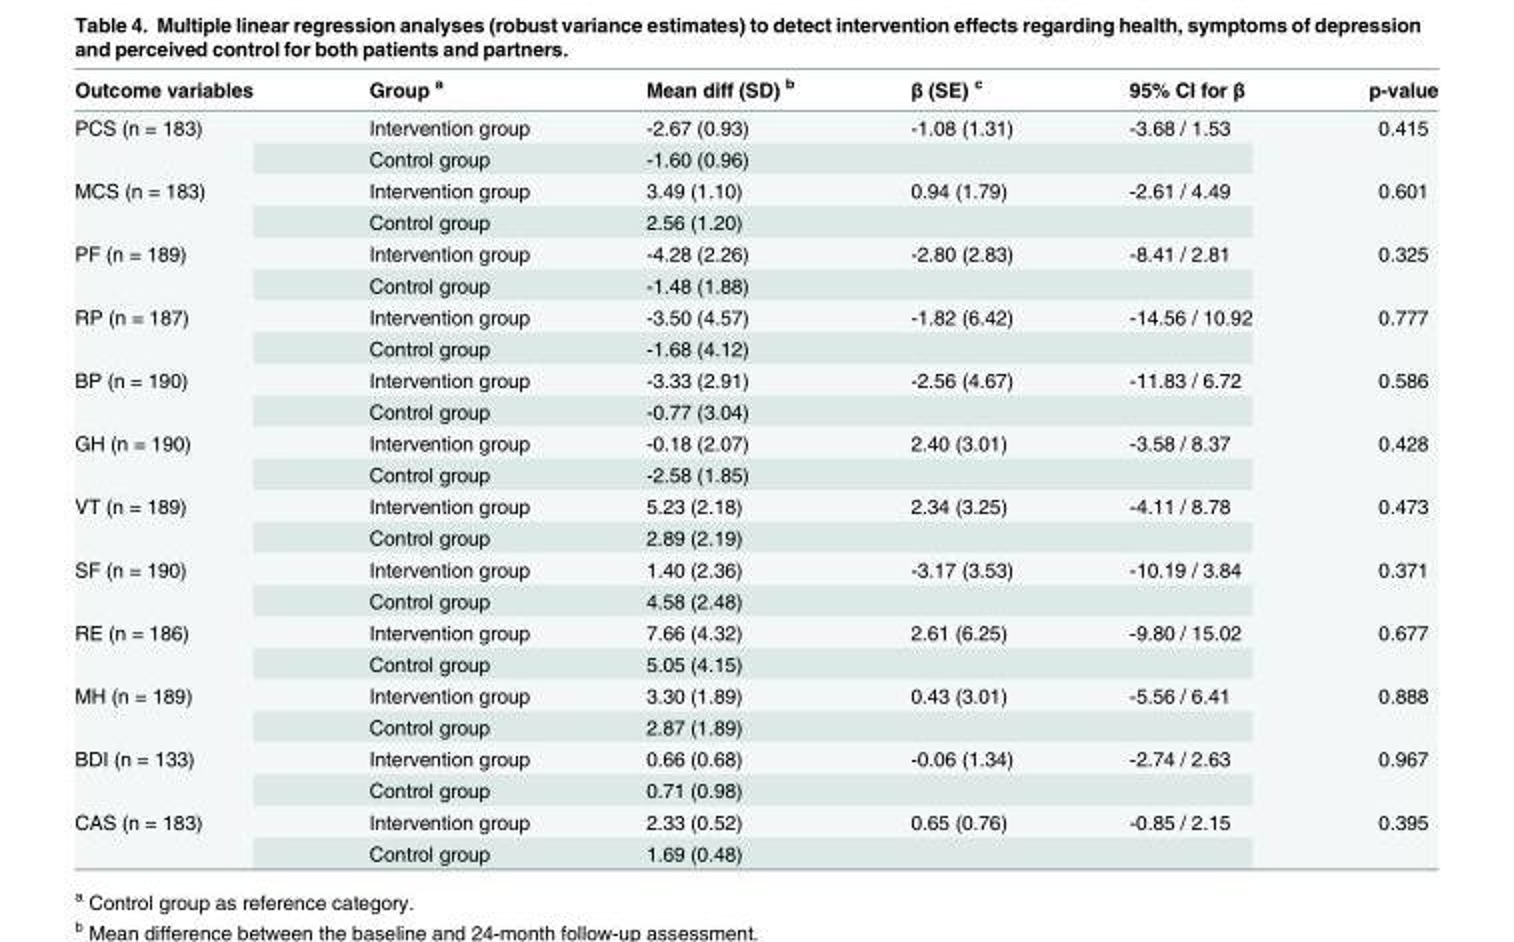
<table><thead><tr><td>Outcome variables</td><td>Group <sup>a</sup></td><td>Mean diff (SD) <sup>b</sup></td><td>β (SE) <sup>c</sup></td><td>95% CI for β</td><td>p-value</td></tr></thead><tbody><tr><td rowspan="2">PCS (n = 183)</td><td>Intervention group</td><td>-2.67 (0.93)</td><td>-1.08 (1.31)</td><td>-3.68 / 1.53</td><td rowspan="2">0.415</td></tr><tr><td>Control group</td><td>-1.60 (0.96)</td><td></td><td></td></tr><tr><td rowspan="2">MCS (n = 183)</td><td>Intervention group</td><td>3.49 (1.10)</td><td>0.94 (1.79)</td><td>-2.61 / 4.49</td><td rowspan="2">0.601</td></tr><tr><td>Control group</td><td>2.56 (1.20)</td><td></td><td></td></tr><tr><td rowspan="2">PF (n = 189)</td><td>Intervention group</td><td>-4.28 (2.26)</td><td>-2.80 (2.83)</td><td>-8.41 / 2.81</td><td rowspan="2">0.325</td></tr><tr><td>Control group</td><td>-1.48 (1.88)</td><td></td><td></td></tr><tr><td rowspan="2">RP (n = 187)</td><td>Intervention group</td><td>-3.50 (4.57)</td><td>-1.82 (6.42)</td><td>-14.56 / 10.92</td><td rowspan="2">0.777</td></tr><tr><td>Control group</td><td>-1.68 (4.12)</td><td></td><td></td></tr><tr><td rowspan="2">BP (n = 190)</td><td>Intervention group</td><td>-3.33 (2.91)</td><td>-2.56 (4.67)</td><td>-11.83 / 6.72</td><td rowspan="2">0.586</td></tr><tr><td>Control group</td><td>-0.77 (3.04)</td><td></td><td></td></tr><tr><td rowspan="2">GH (n = 190)</td><td>Intervention group</td><td>-0.18 (2.07)</td><td>2.40 (3.01)</td><td>-3.58 / 8.37</td><td rowspan="2">0.428</td></tr><tr><td>Control group</td><td>-2.58 (1.85)</td><td></td><td></td></tr><tr><td rowspan="2">VT (n = 189)</td><td>Intervention group</td><td>5.23 (2.18)</td><td>2.34 (3.25)</td><td>-4.11 / 8.78</td><td rowspan="2">0.473</td></tr><tr><td>Control group</td><td>2.89 (2.19)</td><td></td><td></td></tr><tr><td rowspan="2">SF (n = 190)</td><td>Intervention group</td><td>1.40 (2.36)</td><td>-3.17 (3.53)</td><td>-10.19 / 3.84</td><td rowspan="2">0.371</td></tr><tr><td>Control group</td><td>4.58 (2.48)</td><td></td><td></td></tr><tr><td rowspan="2">RE (n = 186)</td><td>Intervention group</td><td>7.66 (4.32)</td><td>2.61 (6.25)</td><td>-9.80 / 15.02</td><td rowspan="2">0.677</td></tr><tr><td>Control group</td><td>5.05 (4.15)</td><td></td><td></td></tr><tr><td rowspan="2">MH (n = 189)</td><td>Intervention group</td><td>3.30 (1.89)</td><td>0.43 (3.01)</td><td>-5.56 / 6.41</td><td rowspan="2">0.888</td></tr><tr><td>Control group</td><td>2.87 (1.89)</td><td></td><td></td></tr><tr><td rowspan="2">BDI (n = 133)</td><td>Intervention group</td><td>0.66 (0.68)</td><td>-0.06 (1.34)</td><td>-2.74 / 2.63</td><td rowspan="2">0.967</td></tr><tr><td>Control group</td><td>0.71 (0.98)</td><td></td><td></td></tr><tr><td rowspan="2">CAS (n = 183)</td><td>Intervention group</td><td>2.33 (0.52)</td><td>0.65 (0.76)</td><td>-0.85 / 2.15</td><td rowspan="2">0.395</td></tr><tr><td>Control group</td><td>1.69 (0.48)</td><td></td><td></td></tr></tbody></table>